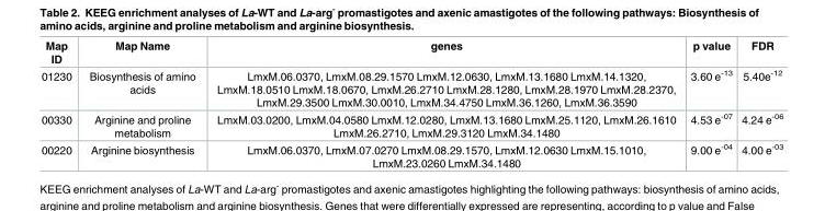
<table><thead><tr><td>Map ID</td><td>Map Name</td><td>genes</td><td>p value</td><td>FDR</td></tr></thead><tbody><tr><td>01230</td><td>Biosynthesis of amino acids</td><td>LmxM.06.0370, LmxM.08.29.1570 LmxM.12.0630, LmxM.13.1680 LmxM.14.1320, LmxM.18.0510 LmxM.18.0670, LmxM.26.2710 LmxM.28.1280, LmxM.28.1970 LmxM.28.2370, LmxM.29.3500 LmxM.30.0010, LmxM.34.4750 LmxM.36.1260, LmxM.36.3590</td><td>3.60 e<sup>-13</sup></td><td>5.40e<sup>-12</sup></td></tr><tr><td>00330</td><td>Arginine and proline metabolism</td><td>LmxM.03.0200, LmxM.04.0580 LmxM.12.0280, LmxM.13.1680 LmxM.25.1120, LmxM.26.1610 LmxM.26.2710, LmxM.29.3120 LmxM.34.1480</td><td>4.53 e<sup>-07</sup></td><td>4.24 e<sup>-06</sup></td></tr><tr><td>00220</td><td>Arginine biosynthesis</td><td>LmxM.06.0370, LmxM.07.0270 LmxM.08.29.1570, LmxM.12.0630 LmxM.15.1010, LmxM.23.0260 LmxM.34.1480</td><td>9.00 e<sup>-04</sup></td><td>4.00 e<sup>-03</sup></td></tr></tbody></table>